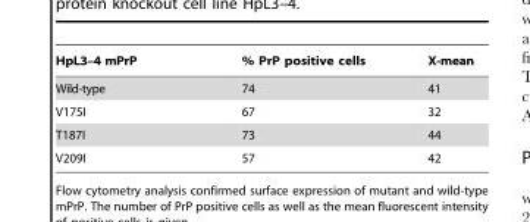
<table><thead><tr><td>HpL3–4 mPrP</td><td>% PrP positive cells</td><td>X-mean</td></tr></thead><tbody><tr><td>Wild-type</td><td>74</td><td>41</td></tr><tr><td>V175I</td><td>67</td><td>32</td></tr><tr><td>T187I</td><td>73</td><td>44</td></tr><tr><td>V209I</td><td>57</td><td>42</td></tr></tbody></table>